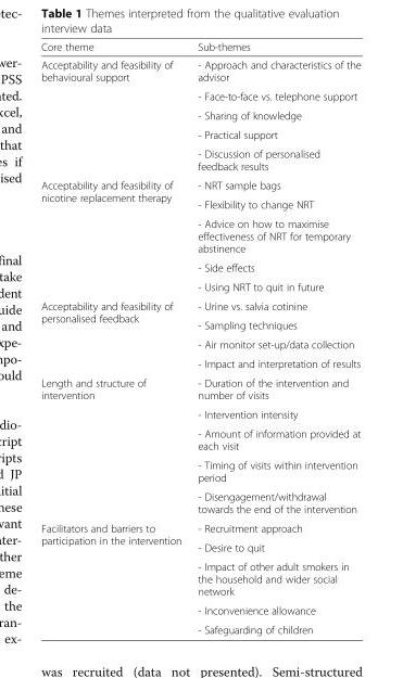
<table><thead><tr><td>Core theme</td><td>Sub-themes</td></tr></thead><tbody><tr><td rowspan="5">Acceptability and feasibility of behavioural support</td><td>- Approach and characteristics of the advisor</td></tr><tr><td>- Face-to-face vs. telephone support</td></tr><tr><td>- Sharing of knowledge</td></tr><tr><td>- Practical support</td></tr><tr><td>- Discussion of personalised feedback results</td></tr><tr><td rowspan="5">Acceptability and feasibility of nicotine replacement therapy</td><td>- NRT sample bags</td></tr><tr><td>- Flexibility to change NRT</td></tr><tr><td>- Advice on how to maximise effectiveness of NRT for temporary abstinence</td></tr><tr><td>- Side effects</td></tr><tr><td>- Using NRT to quit in future</td></tr><tr><td rowspan="4">Acceptability and feasibility of personalised feedback</td><td>- Urine vs. salvia cotinine</td></tr><tr><td>- Sampling techniques</td></tr><tr><td>- Air monitor set-up/data collection</td></tr><tr><td>- Impact and interpretation of results</td></tr><tr><td rowspan="5">Length and structure of intervention</td><td>- Duration of the intervention and number of visits</td></tr><tr><td>- Intervention intensity</td></tr><tr><td>- Amount of information provided at each visit</td></tr><tr><td>- Timing of visits within intervention period</td></tr><tr><td>- Disengagement/withdrawal towards the end of the intervention</td></tr><tr><td rowspan="5">Facilitators and barriers to participation in the intervention</td><td>- Recruitment approach</td></tr><tr><td>- Desire to quit</td></tr><tr><td>- Impact of other adult smokers in the household and wider social network</td></tr><tr><td>- Inconvenience allowance</td></tr><tr><td>- Safeguarding of children</td></tr></tbody></table>